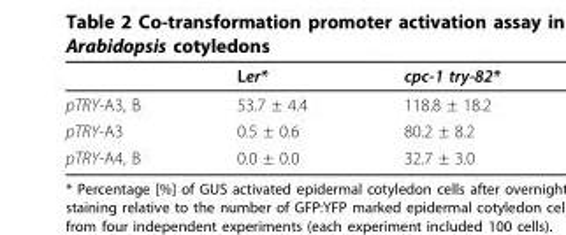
<table><thead><tr><td></td><td>Ler*</td><td>cpc-1 try-82*</td></tr></thead><tbody><tr><td>pTRY-A3, B</td><td>53.7 ± 4.4</td><td>118.8 ± 18.2</td></tr><tr><td>pTRY-A3</td><td>0.5 ± 0.6</td><td>80.2 ± 8.2</td></tr><tr><td>pTRY-A4, B</td><td>0.0 ± 0.0</td><td>32.7 ± 3.0</td></tr></tbody></table>